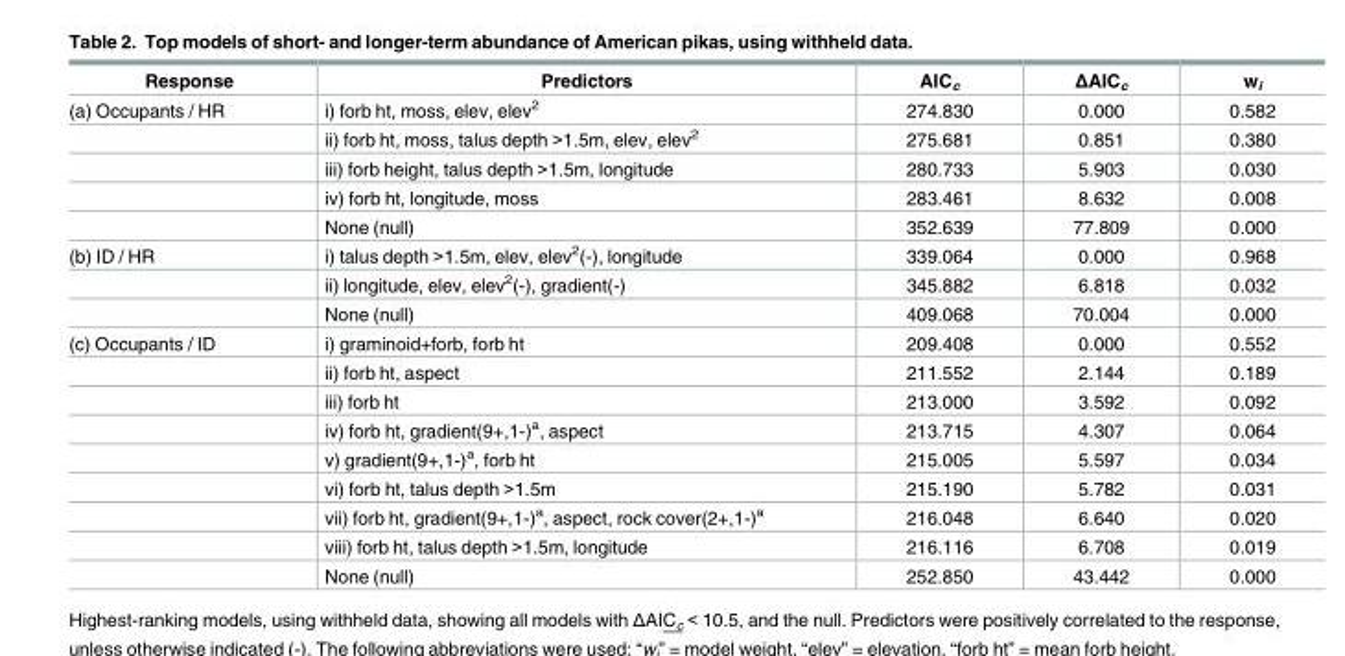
<table><thead><tr><td>Response</td><td>Predictors</td><td>AIC<sub>c</sub></td><td>ΔAIC<sub>c</sub></td><td>w<sub>i</sub></td></tr></thead><tbody><tr><td rowspan="5">(a) Occupants / HR</td><td>i) forb ht, moss, elev, elev<sup>2</sup></td><td>274.830</td><td>0.000</td><td>0.582</td></tr><tr><td>ii) forb ht, moss, talus depth &gt;1.5m, elev, elev<sup>2</sup></td><td>275.681</td><td>0.851</td><td>0.380</td></tr><tr><td>iii) forb height, talus depth &gt;1.5m, longitude</td><td>280.733</td><td>5.903</td><td>0.030</td></tr><tr><td>iv) forb ht, longitude, moss</td><td>283.461</td><td>8.632</td><td>0.008</td></tr><tr><td>None (null)</td><td>352.639</td><td>77.809</td><td>0.000</td></tr><tr><td rowspan="3">(b) ID / HR</td><td>i) talus depth &gt;1.5m, elev, elev<sup>2</sup>(-), longitude</td><td>339.064</td><td>0.000</td><td>0.968</td></tr><tr><td>ii) longitude, elev, elev<sup>2</sup>(-), gradient(-)</td><td>345.882</td><td>6.818</td><td>0.032</td></tr><tr><td>None (null)</td><td>409.068</td><td>70.004</td><td>0.000</td></tr><tr><td rowspan="9">(c) Occupants / ID</td><td>i) graminoid+forb, forb ht</td><td>209.408</td><td>0.000</td><td>0.552</td></tr><tr><td>ii) forb ht, aspect</td><td>211.552</td><td>2.144</td><td>0.189</td></tr><tr><td>iii) forb ht</td><td>213.000</td><td>3.592</td><td>0.092</td></tr><tr><td>iv) forb ht, gradient(9+,1-)<sup>a</sup>, aspect</td><td>213.715</td><td>4.307</td><td>0.064</td></tr><tr><td>v) gradient(9+,1-)<sup>a</sup>, forb ht</td><td>215.005</td><td>5.597</td><td>0.034</td></tr><tr><td>vi) forb ht, talus depth &gt;1.5m</td><td>215.190</td><td>5.782</td><td>0.031</td></tr><tr><td>vii) forb ht, gradient(9+,1-)<sup>a</sup>, aspect, rock cover(2+,1-)<sup>a</sup></td><td>216.048</td><td>6.640</td><td>0.020</td></tr><tr><td>viii) forb ht, talus depth &gt;1.5m, longitude</td><td>216.116</td><td>6.708</td><td>0.019</td></tr><tr><td>None (null)</td><td>252.850</td><td>43.442</td><td>0.000</td></tr></tbody></table>